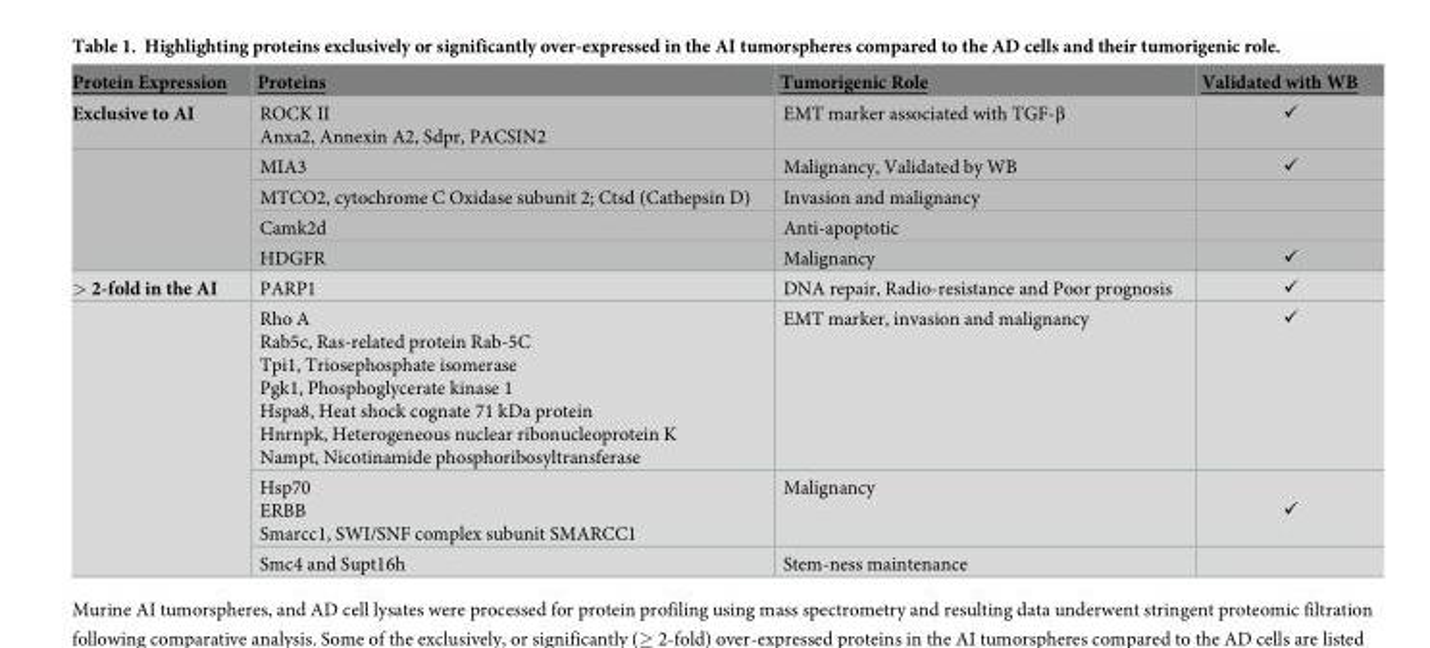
<table><thead><tr><td>Protein Expression</td><td>Proteins</td><td>Tumorigenic Role</td><td>Validated with WB</td></tr></thead><tbody><tr><td rowspan="5">Exclusive to AI</td><td>ROCK II Anxa2, Annexin A2, Sdpr, PACSIN2</td><td>EMT marker associated with TGF-β</td><td>✓</td></tr><tr><td>MIA3</td><td>Malignancy, Validated by WB</td><td>✓</td></tr><tr><td>MTCO2, cytochrome C Oxidase subunit 2; Ctsd (Cathepsin D)</td><td>Invasion and malignancy</td><td></td></tr><tr><td>Camk2d</td><td>Anti-apoptotic</td><td></td></tr><tr><td>HDGFR</td><td>Malignancy</td><td>✓</td></tr><tr><td rowspan="4">&gt; 2-fold in the AI</td><td>PARP1</td><td>DNA repair, Radio-resistance and Poor prognosis</td><td>✓</td></tr><tr><td>Rho A Rab5c, Ras-related protein Rab-5C Tpi1, Triosephosphate isomerase Pgk1, Phosphoglycerate kinase 1 Hspa8, Heat shock cognate 71 kDa protein Hnrnpk, Heterogeneous nuclear ribonucleoprotein K Nampt, Nicotinamide phosphoribosyltransferase</td><td>EMT marker, invasion and malignancy</td><td>✓</td></tr><tr><td>Hsp70 ERBB Smarcc1, SWI/SNF complex subunit SMARCC1</td><td>Malignancy</td><td>✓</td></tr><tr><td>Smc4 and Supt16h</td><td>Stem-ness maintenance</td><td></td></tr></tbody></table>